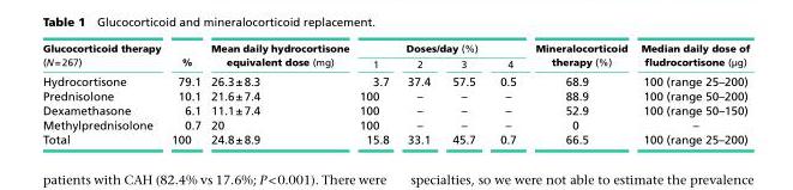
<table><thead><tr><td rowspan="2">Glucocorticoid therapy (N = 267)</td><td rowspan="2">%</td><td rowspan="2">Mean daily hydrocortisone equivalent dose (mg)</td><td colspan="4">Doses/day (%)</td><td rowspan="2">Mineralocorticoid therapy (%)</td><td rowspan="2">Median daily dose of fludrocortisone (µg)</td></tr><tr><td>1</td><td>2</td><td>3</td><td>4</td></tr></thead><tbody><tr><td>Hydrocortisone</td><td>79.1</td><td>26.3 ± 8.3</td><td>3.7</td><td>37.4</td><td>57.5</td><td>0.5</td><td>68.9</td><td>100 (range 25–200)</td></tr><tr><td>Prednisolone</td><td>10.1</td><td>21.6 ± 7.4</td><td>100</td><td>–</td><td>–</td><td>–</td><td>88.9</td><td>100 (range 50–200)</td></tr><tr><td>Dexamethasone</td><td>6.1</td><td>11.1 ± 7.4</td><td>100</td><td>–</td><td>–</td><td>–</td><td>52.9</td><td>100 (range 50–150)</td></tr><tr><td>Methylprednisolone</td><td>0.7</td><td>20</td><td>100</td><td>–</td><td>–</td><td>–</td><td>0</td><td>–</td></tr><tr><td>Total</td><td>100</td><td>24.8 ± 8.9</td><td>15.8</td><td>33.1</td><td>45.7</td><td>0.7</td><td>66.5</td><td>100 (range 25–200)</td></tr></tbody></table>